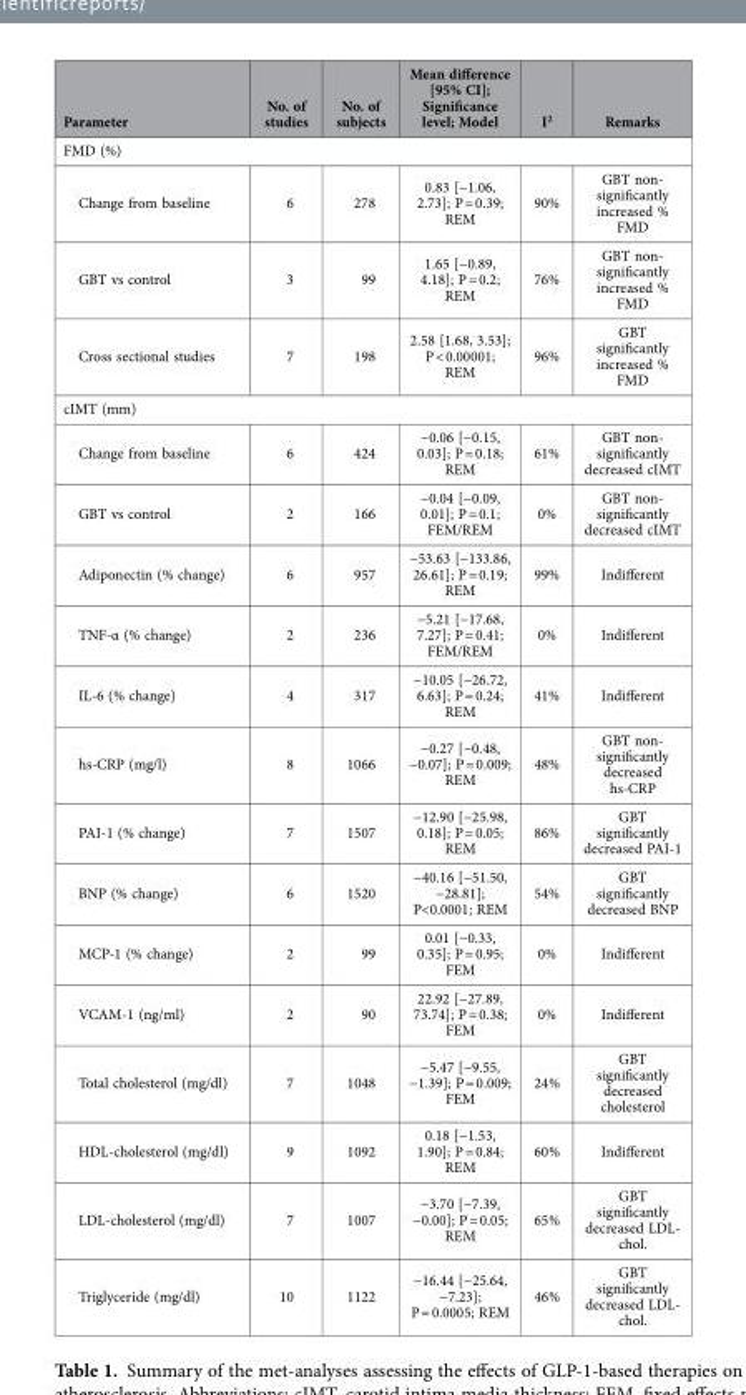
<table><thead><tr><td>Parameter</td><td>No. of studies</td><td>No. of subjects</td><td>Mean difference [95% CI]; Significance level; Model</td><td>I<sup>2</sup></td><td>Remarks</td></tr></thead><tbody><tr><td colspan="6">FMD (%)</td></tr><tr><td>Change from baseline</td><td>6</td><td>278</td><td>0.83 [−1.06, 2.73]; P = 0.39; REM</td><td>90%</td><td>GBT non- significantly increased % FMD</td></tr><tr><td>GBT vs control</td><td>3</td><td>99</td><td>1.65 [−0.89, 4.18]; P = 0.2; REM</td><td>76%</td><td>GBT non- significantly increased % FMD</td></tr><tr><td>Cross sectional studies</td><td>7</td><td>198</td><td>2.58 [1.68, 3.53]; P &lt; 0.00001; REM</td><td>96%</td><td>GBT significantly increased % FMD</td></tr><tr><td colspan="6">cIMT (mm)</td></tr><tr><td>Change from baseline</td><td>6</td><td>424</td><td>−0.06 [−0.15, 0.03]; P = 0.18; REM</td><td>61%</td><td>GBT non- significantly decreased cIMT</td></tr><tr><td>GBT vs control</td><td>2</td><td>166</td><td>−0.04 [−0.09, 0.01]; P = 0.1; FEM/REM</td><td>0%</td><td>GBT non- significantly decreased cIMT</td></tr><tr><td>Adiponectin (% change)</td><td>6</td><td>957</td><td>−53.63 [−133.86, 26.61]; P = 0.19; REM</td><td>99%</td><td>Indifferent</td></tr><tr><td>TNF-α (% change)</td><td>2</td><td>236</td><td>−5.21 [−17.68, 7.27]; P = 0.41; FEM/REM</td><td>0%</td><td>Indifferent</td></tr><tr><td>IL-6 (% change)</td><td>4</td><td>317</td><td>−10.05 [−26.72, 6.63]; P = 0.24; REM</td><td>41%</td><td>Indifferent</td></tr><tr><td>hs-CRP (mg/l)</td><td>8</td><td>1066</td><td>−0.27 [−0.48, −0.07]; P = 0.009; REM</td><td>48%</td><td>GBT non- significantly decreased hs-CRP</td></tr><tr><td>PAI-1 (% change)</td><td>7</td><td>1507</td><td>−12.90 [−25.98, 0.18]; P = 0.05; REM</td><td>86%</td><td>GBT significantly decreased PAI-1</td></tr><tr><td>BNP (% change)</td><td>6</td><td>1520</td><td>−40.16 [−51.50, −28.81]; P&lt;0.0001; REM</td><td>54%</td><td>GBT significantly decreased BNP</td></tr><tr><td>MCP-1 (% change)</td><td>2</td><td>99</td><td>0.01 [−0.33, 0.35]; P = 0.95; FEM</td><td>0%</td><td>Indifferent</td></tr><tr><td>VCAM-1 (ng/ml)</td><td>2</td><td>90</td><td>22.92 [−27.89, 73.74]; P = 0.38; FEM</td><td>0%</td><td>Indifferent</td></tr><tr><td>Total cholesterol (mg/dl)</td><td>7</td><td>1048</td><td>−5.47 [−9.55, −1.39]; P = 0.009; FEM</td><td>24%</td><td>GBT significantly decreased cholesterol</td></tr><tr><td>HDL-cholesterol (mg/dl)</td><td>9</td><td>1092</td><td>0.18 [−1.53, 1.90]; P = 0.84; REM</td><td>60%</td><td>Indifferent</td></tr><tr><td>LDL-cholesterol (mg/dl)</td><td>7</td><td>1007</td><td>−3.70 [−7.39, −0.00]; P = 0.05; REM</td><td>65%</td><td>GBT significantly decreased LDL- chol.</td></tr><tr><td>Triglyceride (mg/dl)</td><td>10</td><td>1122</td><td>−16.44 [−25.64, −7.23]; P = 0.0005; REM</td><td>46%</td><td>GBT significantly decreased LDL- chol.</td></tr></tbody></table>